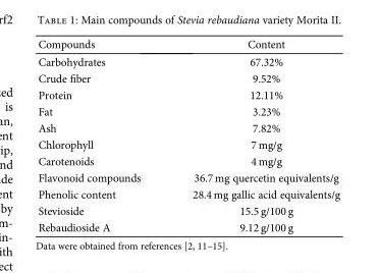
<table><thead><tr><td>Compounds</td><td>Content</td></tr></thead><tbody><tr><td>Carbohydrates</td><td>67.32%</td></tr><tr><td>Crude fiber</td><td>9.52%</td></tr><tr><td>Protein</td><td>12.11%</td></tr><tr><td>Fat</td><td>3.23%</td></tr><tr><td>Ash</td><td>7.82%</td></tr><tr><td>Chlorophyll</td><td>7 mg/g</td></tr><tr><td>Carotenoids</td><td>4 mg/g</td></tr><tr><td>Flavonoid compounds</td><td>36.7 mg quercetin equivalents/g</td></tr><tr><td>Phenolic content</td><td>28.4 mg gallic acid equivalents/g</td></tr><tr><td>Stevioside</td><td>15.5 g/100 g</td></tr><tr><td>Rebaudioside A</td><td>9.12 g/100 g</td></tr></tbody></table>